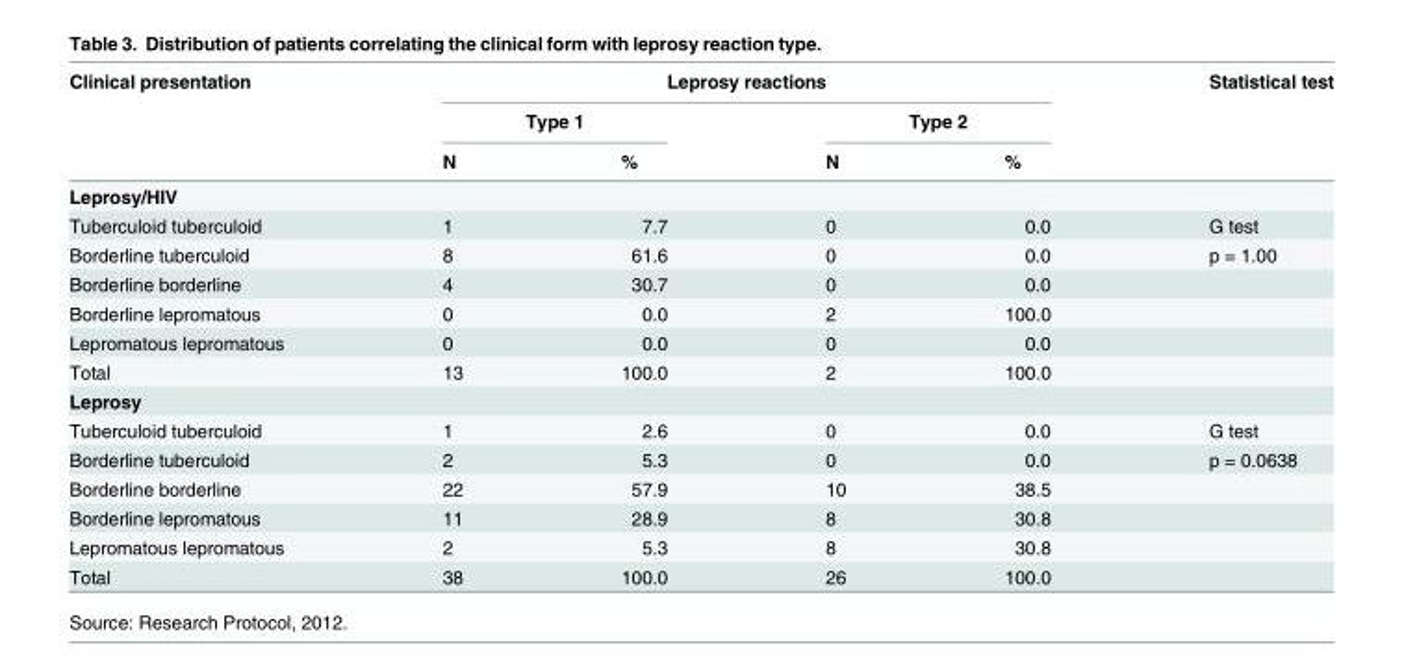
<table><thead><tr><td rowspan="3">Clinical presentation</td><td colspan="4">Leprosy reactions</td><td rowspan="3">Statistical test</td></tr><tr><td colspan="2">Type 1</td><td colspan="2">Type 2</td></tr><tr><td>N</td><td>%</td><td>N</td><td>%</td></tr></thead><tbody><tr><td colspan="6">Leprosy/HIV</td></tr><tr><td>Tuberculoid tuberculoid</td><td>1</td><td>7.7</td><td>0</td><td>0.0</td><td>G test</td></tr><tr><td>Borderline tuberculoid</td><td>8</td><td>61.6</td><td>0</td><td>0.0</td><td>p = 1.00</td></tr><tr><td>Borderline borderline</td><td>4</td><td>30.7</td><td>0</td><td>0.0</td><td></td></tr><tr><td>Borderline lepromatous</td><td>0</td><td>0.0</td><td>2</td><td>100.0</td><td></td></tr><tr><td>Lepromatous lepromatous</td><td>0</td><td>0.0</td><td>0</td><td>0.0</td><td></td></tr><tr><td>Total</td><td>13</td><td>100.0</td><td>2</td><td>100.0</td><td></td></tr><tr><td colspan="6">Leprosy</td></tr><tr><td>Tuberculoid tuberculoid</td><td>1</td><td>2.6</td><td>0</td><td>0.0</td><td>G test</td></tr><tr><td>Borderline tuberculoid</td><td>2</td><td>5.3</td><td>0</td><td>0.0</td><td>p = 0.0638</td></tr><tr><td>Borderline borderline</td><td>22</td><td>57.9</td><td>10</td><td>38.5</td><td></td></tr><tr><td>Borderline lepromatous</td><td>11</td><td>28.9</td><td>8</td><td>30.8</td><td></td></tr><tr><td>Lepromatous lepromatous</td><td>2</td><td>5.3</td><td>8</td><td>30.8</td><td></td></tr><tr><td>Total</td><td>38</td><td>100.0</td><td>26</td><td>100.0</td><td></td></tr></tbody></table>